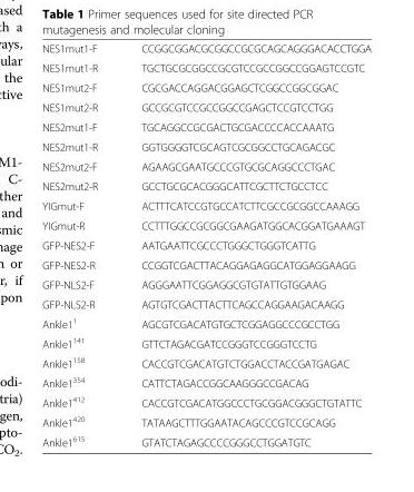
<table><tbody><tr><td>NES1mut1-F</td><td>CCGGCGGACGCGGCCGCGCAGCAGGGACACCTGGA</td></tr><tr><td>NES1mut1-R</td><td>TGCTGCGCGGCCGCGTCCGCCGGCCGGAGTCCGTC</td></tr><tr><td>NES1mut2-F</td><td>CGCGACCAGGACGGAGCTCGGCCGGCGGAC</td></tr><tr><td>NES1mut2-R</td><td>GCCGCGTCCGCCGGCCGAGCTCCGTCCTGG</td></tr><tr><td>NES2mut1-F</td><td>TGCAGGCCGCGACTGCGACCCCACCAAATG</td></tr><tr><td>NES2mut1-R</td><td>GGTGGGGTCGCAGTCGCGGCCTGCAGACGC</td></tr><tr><td>NES2mut2-F</td><td>AGAAGCGAATGCCCGTGCGCAGGCCCTGAC</td></tr><tr><td>NES2mut2-R</td><td>GCCTGCGCACGGGCATTCGCTTCTGCCTCC</td></tr><tr><td>YIGmut-F</td><td>ACTTTCATCCGTGCCATCTTCGCCGCGGCCAAAGG</td></tr><tr><td>YIGmut-R</td><td>CCTTTGGCCGCGGCGAAGATGGCACGGATGAAAGT</td></tr><tr><td>GFP-NES2-F</td><td>AATGAATTCGCCCTGGGCTGGGTCATTG</td></tr><tr><td>GFP-NES2-R</td><td>CCGGTCGACTTACAGGAGAGGCATGGAGGAAGG</td></tr><tr><td>GFP-NLS2-F</td><td>AGGGAATTCGGAGGCGTGTATTGTGGAAG</td></tr><tr><td>GFP-NLS2-R</td><td>AGTGTCGACTTACTTCAGCCAGGAAGACAAGG</td></tr><tr><td>Ankle1<sup>1</sup></td><td>AGCGTCGACATGTGCTCGGAGGCCCGCCTGG</td></tr><tr><td>Ankle1<sup>141</sup></td><td>GTTCTAGACGATCCGGGTCCGGGTCCTG</td></tr><tr><td>Ankle1<sup>158</sup></td><td>CACCGTCGACATGTCTGGACCTACCGATGAGAC</td></tr><tr><td>Ankle1<sup>354</sup></td><td>CATTCTAGACCGGCAAGGGCCGACAG</td></tr><tr><td>Ankle1<sup>412</sup></td><td>CACCGTCGACATGGCCCTGCGGACGGGCTGTATTC</td></tr><tr><td>Ankle1<sup>420</sup></td><td>TATAAGCTTTGGAATACAGCCCGTCCGCAGG</td></tr><tr><td>Ankle1<sup>615</sup></td><td>GTATCTAGAGCCCCGGGCCTGGATGTC</td></tr></tbody></table>